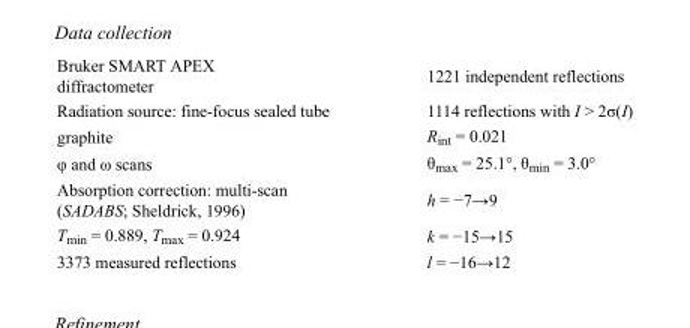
<table><tbody><tr><td>Bruker SMART APEX diffractometer</td><td>1221 independent reflections</td></tr><tr><td>Radiation source: fine-focus sealed tube</td><td>1114 reflections with I &gt; 2σ(I)</td></tr><tr><td>graphite</td><td>R<sub>int</sub> = 0.021</td></tr><tr><td>φ and ω scans</td><td>θ<sub>max</sub> = 25.1°, θ<sub>min</sub> = 3.0°</td></tr><tr><td>Absorption correction: multi-scan (SADABS; Sheldrick, 1996)</td><td>h = −7→9</td></tr><tr><td>T<sub>min</sub> = 0.889, T<sub>max</sub> = 0.924</td><td>k = −15→15</td></tr><tr><td>3373 measured reflections</td><td>l = −16→12</td></tr></tbody></table>